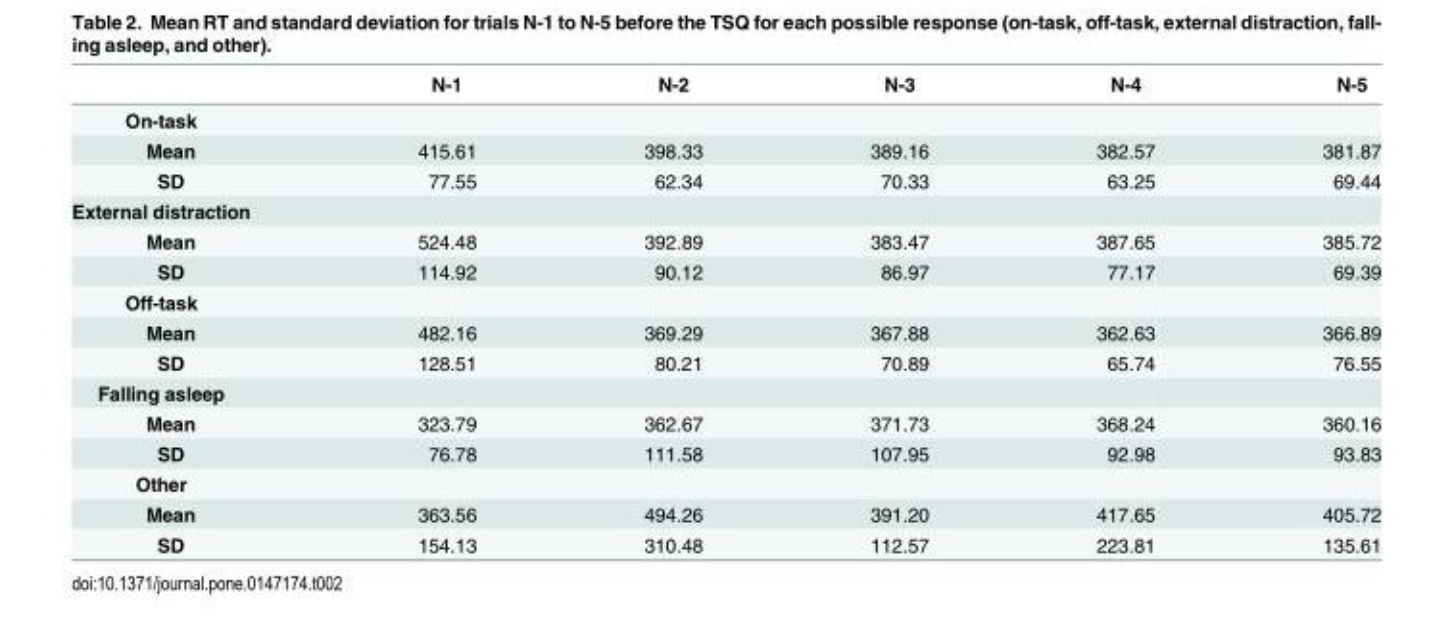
<table><thead><tr><td></td><td>N-1</td><td>N-2</td><td>N-3</td><td>N-4</td><td>N-5</td></tr></thead><tbody><tr><td colspan="6">On-task</td></tr><tr><td>Mean</td><td>415.61</td><td>398.33</td><td>389.16</td><td>382.57</td><td>381.87</td></tr><tr><td>SD</td><td>77.55</td><td>62.34</td><td>70.33</td><td>63.25</td><td>69.44</td></tr><tr><td colspan="6">External distraction</td></tr><tr><td>Mean</td><td>524.48</td><td>392.89</td><td>383.47</td><td>387.65</td><td>385.72</td></tr><tr><td>SD</td><td>114.92</td><td>90.12</td><td>86.97</td><td>77.17</td><td>69.39</td></tr><tr><td colspan="6">Off-task</td></tr><tr><td>Mean</td><td>482.16</td><td>369.29</td><td>367.88</td><td>362.63</td><td>366.89</td></tr><tr><td>SD</td><td>128.51</td><td>80.21</td><td>70.89</td><td>65.74</td><td>76.55</td></tr><tr><td colspan="6">Falling asleep</td></tr><tr><td>Mean</td><td>323.79</td><td>362.67</td><td>371.73</td><td>368.24</td><td>360.16</td></tr><tr><td>SD</td><td>76.78</td><td>111.58</td><td>107.95</td><td>92.98</td><td>93.83</td></tr><tr><td colspan="6">Other</td></tr><tr><td>Mean</td><td>363.56</td><td>494.26</td><td>391.20</td><td>417.65</td><td>405.72</td></tr><tr><td>SD</td><td>154.13</td><td>310.48</td><td>112.57</td><td>223.81</td><td>135.61</td></tr></tbody></table>